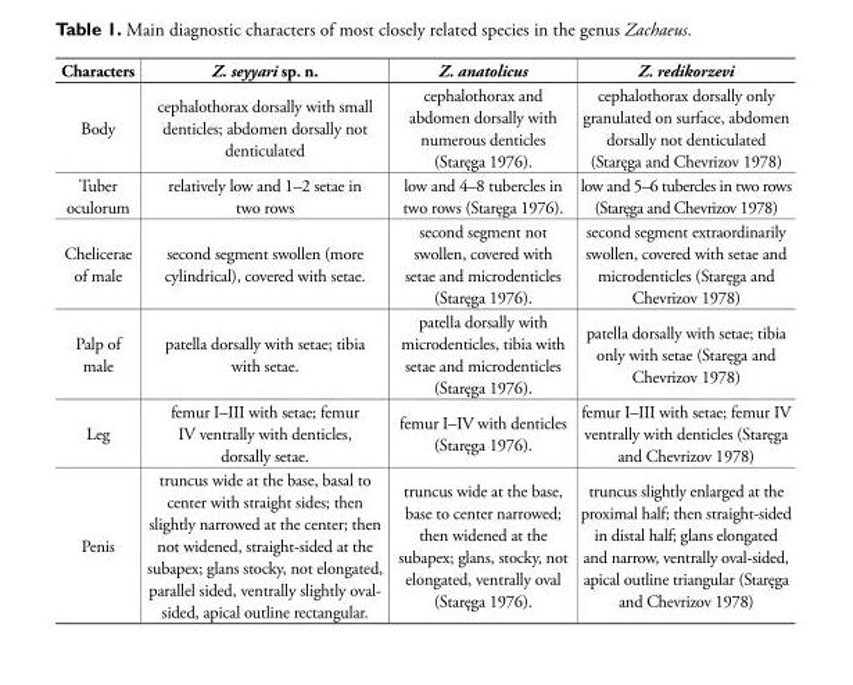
<table><thead><tr><td>Characters</td><td>Z. seyyari sp. n.</td><td>Z. anatolicus</td><td>Z. redikorzevi</td></tr></thead><tbody><tr><td>Body</td><td>cephalothorax dorsally with small denticles; abdomen dorsally not denticulated</td><td>cephalothorax and abdomen dorsally with numerous denticles (Staręga 1976).</td><td>cephalothorax dorsally only granulated on surface, abdomen dorsally not denticulated (Staręga and Chevrizov 1978)</td></tr><tr><td>Tuber oculorum</td><td>relatively low and 1–2 setae in two rows</td><td>low and 4–8 tubercles in two rows (Staręga 1976).</td><td>low and 5–6 tubercles in two rows (Staręga and Chevrizov 1978)</td></tr><tr><td>Chelicerae of male</td><td>second segment swollen (more cylindrical), covered with setae.</td><td>second segment not swollen, covered with setae and microdenticles (Staręga 1976).</td><td>second segment extraordinarily swollen, covered with setae and microdenticles (Staręga and Chevrizov 1978)</td></tr><tr><td>Palp of male</td><td>patella dorsally with setae; tibia with setae.</td><td>patella dorsally with microdenticles, tibia with setae and microdenticles (Staręga 1976).</td><td>patella dorsally with setae; tibia only with setae (Staręga and Chevrizov 1978)</td></tr><tr><td>Leg</td><td>femur I–III with setae; femur IV ventrally with denticles, dorsally setae.</td><td>femur I–IV with denticles (Staręga 1976).</td><td>femur I–III with setae; femur IV ventrally with denticles (Staręga and Chevrizov 1978)</td></tr><tr><td>Penis</td><td>truncus wide at the base, basal to center with straight sides; then slightly narrowed at the center; then not widened, straight-sided at the subapex; glans stocky, not elongated, parallel sided, ventrally slightly oval- sided, apical outline rectangular.</td><td>truncus wide at the base, base to center narrowed; then widened at the subapex; glans, stocky, not elongated, ventrally oval (Staręga 1976).</td><td>truncus slightly enlarged at the proximal half; then straight-sided in distal half; glans elongated and narrow, ventrally oval-sided, apical outline triangular (Staręga and Chevrizov 1978)</td></tr></tbody></table>